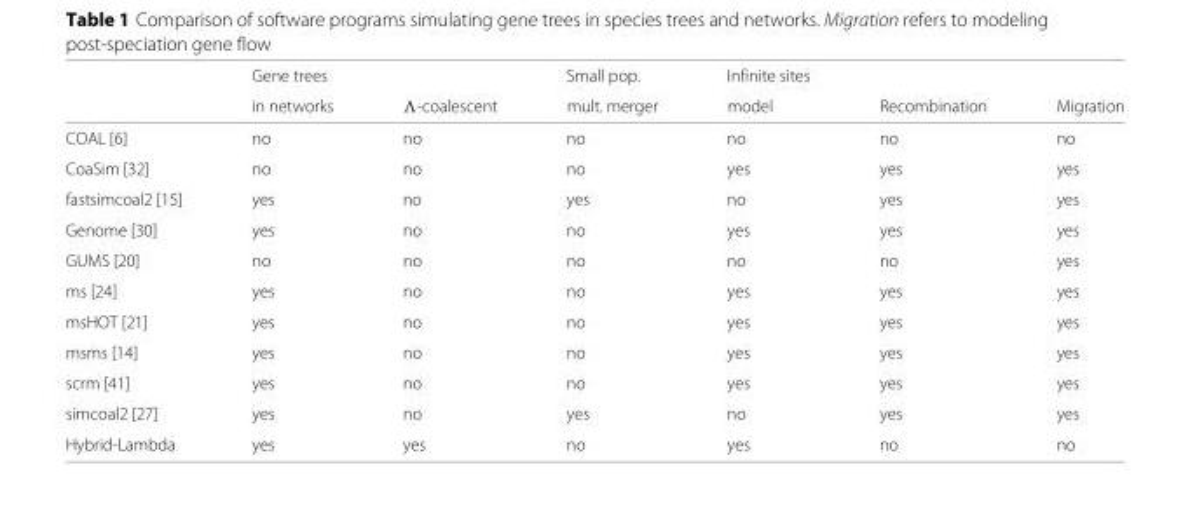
<table><thead><tr><td rowspan="2"></td><td rowspan="2">Gene trees in networks</td><td rowspan="2">Λ-coalescent</td><td rowspan="2">Small pop. mult. merger</td><td rowspan="2">Infinite sites model</td><td rowspan="2">Recombination</td><td rowspan="2">Migration</td></tr><tr></tr></thead><tbody><tr><td>COAL [6]</td><td>no</td><td>no</td><td>no</td><td>no</td><td>no</td><td>no</td></tr><tr><td>CoaSim [32]</td><td>no</td><td>no</td><td>no</td><td>yes</td><td>yes</td><td>yes</td></tr><tr><td>fastsimcoal2 [15]</td><td>yes</td><td>no</td><td>yes</td><td>no</td><td>yes</td><td>yes</td></tr><tr><td>Genome [30]</td><td>yes</td><td>no</td><td>no</td><td>yes</td><td>yes</td><td>yes</td></tr><tr><td>GUMS [20]</td><td>no</td><td>no</td><td>no</td><td>no</td><td>no</td><td>yes</td></tr><tr><td>ms [24]</td><td>yes</td><td>no</td><td>no</td><td>yes</td><td>yes</td><td>yes</td></tr><tr><td>msHOT [21]</td><td>yes</td><td>no</td><td>no</td><td>yes</td><td>yes</td><td>yes</td></tr><tr><td>msms [14]</td><td>yes</td><td>no</td><td>no</td><td>yes</td><td>yes</td><td>yes</td></tr><tr><td>scrm [41]</td><td>yes</td><td>no</td><td>no</td><td>yes</td><td>yes</td><td>yes</td></tr><tr><td>simcoal2 [27]</td><td>yes</td><td>no</td><td>yes</td><td>no</td><td>yes</td><td>yes</td></tr><tr><td>Hybrid-Lambda</td><td>yes</td><td>yes</td><td>no</td><td>yes</td><td>no</td><td>no</td></tr></tbody></table>